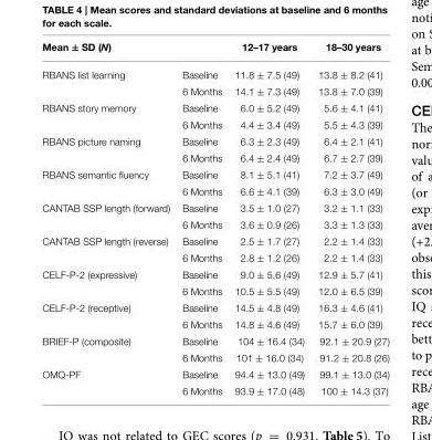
<table><thead><tr><td>Mean ± SD (N)</td><td></td><td>12–17 years</td><td>18–30 years</td></tr></thead><tbody><tr><td rowspan="2">RBANS list learning</td><td>Baseline</td><td>11.8 ± 7.5 (49)</td><td>13.8 ± 8.2 (41)</td></tr><tr><td>6 Months</td><td>14.1 ± 7.3 (49)</td><td>13.8 ± 7.0 (39)</td></tr><tr><td rowspan="2">RBANS story memory</td><td>Baseline</td><td>6.0 ± 5.2 (49)</td><td>5.6 ± 4.1 (41)</td></tr><tr><td>6 Months</td><td>4.4 ± 3.4 (49)</td><td>5.5 ± 4.3 (39)</td></tr><tr><td rowspan="2">RBANS picture naming</td><td>Baseline</td><td>6.3 ± 2.3 (49)</td><td>6.4 ± 2.1 (41)</td></tr><tr><td>6 Months</td><td>6.4 ± 2.4 (49)</td><td>6.7 ± 2.7 (39)</td></tr><tr><td rowspan="2">RBANS semantic fluency</td><td>Baseline</td><td>8.1 ± 5.1 (41)</td><td>7.2 ± 3.7 (49)</td></tr><tr><td>6 Months</td><td>6.6 ± 4.1 (39)</td><td>6.3 ± 3.0 (49)</td></tr><tr><td rowspan="2">CANTAB SSP length (forward)</td><td>Baseline</td><td>3.5 ± 1.0 (27)</td><td>3.2 ± 1.1 (33)</td></tr><tr><td>6 Months</td><td>3.6 ± 0.9 (26)</td><td>3.3 ± 1.3 (33)</td></tr><tr><td rowspan="2">CANTAB SSP length (reverse)</td><td>Baseline</td><td>2.5 ± 1.7 (27)</td><td>2.2 ± 1.4 (33)</td></tr><tr><td>6 Months</td><td>2.8 ± 1.2 (26)</td><td>2.2 ± 1.4 (33)</td></tr><tr><td rowspan="2">CELF-P-2 (expressive)</td><td>Baseline</td><td>9.0 ± 5.6 (49)</td><td>12.9 ± 5.7 (41)</td></tr><tr><td>6 Months</td><td>10.5 ± 5.5 (49)</td><td>12.0 ± 6.5 (39)</td></tr><tr><td rowspan="2">CELF-P-2 (receptive)</td><td>Baseline</td><td>14.5 ± 4.8 (49)</td><td>16.3 ± 4.6 (41)</td></tr><tr><td>6 Months</td><td>14.8 ± 4.6 (49)</td><td>15.7 ± 6.0 (39)</td></tr><tr><td rowspan="2">BRIEF-P (composite)</td><td>Baseline</td><td>104 ± 16.4 (34)</td><td>92.1 ± 20.9 (27)</td></tr><tr><td>6 Months</td><td>101 ± 16.0 (34)</td><td>91.2 ± 20.8 (26)</td></tr><tr><td rowspan="2">OMQ-PF</td><td>Baseline</td><td>94.4 ± 13.0 (49)</td><td>99.1 ± 13.0 (34)</td></tr><tr><td>6 Months</td><td>93.9 ± 17.0 (48)</td><td>100 ± 14.3 (37)</td></tr></tbody></table>